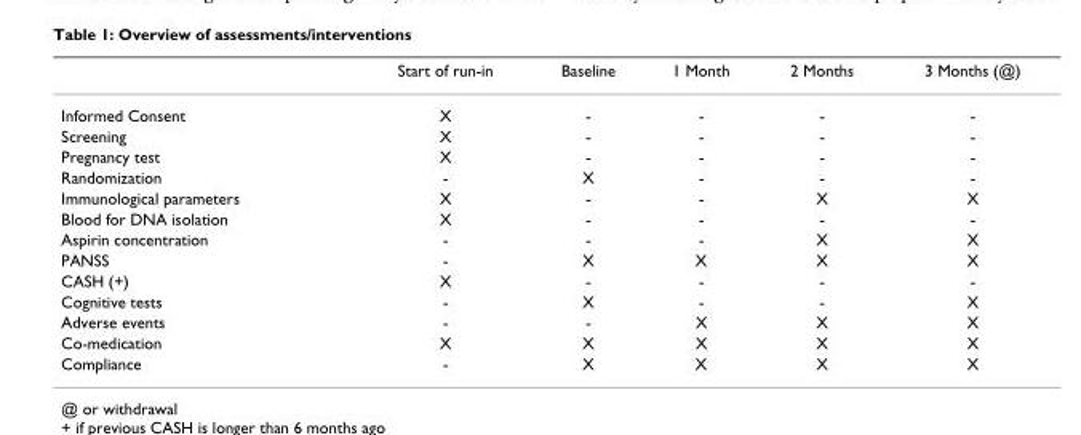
<table><thead><tr><td></td><td>Start of run-in</td><td>Baseline</td><td>1 Month</td><td>2 Months</td><td>3 Months (@)</td></tr></thead><tbody><tr><td>Informed Consent</td><td>X</td><td>-</td><td>-</td><td>-</td><td>-</td></tr><tr><td>Screening</td><td>X</td><td>-</td><td>-</td><td>-</td><td>-</td></tr><tr><td>Pregnancy test</td><td>X</td><td>-</td><td>-</td><td>-</td><td>-</td></tr><tr><td>Randomization</td><td>-</td><td>X</td><td>-</td><td>-</td><td>-</td></tr><tr><td>Immunological parameters</td><td>X</td><td>-</td><td>-</td><td>X</td><td>X</td></tr><tr><td>Blood for DNA isolation</td><td>X</td><td>-</td><td>-</td><td>-</td><td>-</td></tr><tr><td>Aspirin concentration</td><td>-</td><td>-</td><td>-</td><td>X</td><td>X</td></tr><tr><td>PANSS</td><td>-</td><td>X</td><td>X</td><td>X</td><td>X</td></tr><tr><td>CASH (+)</td><td>X</td><td>-</td><td>-</td><td>-</td><td>-</td></tr><tr><td>Cognitive tests</td><td>-</td><td>X</td><td>-</td><td>-</td><td>X</td></tr><tr><td>Adverse events</td><td>-</td><td>-</td><td>X</td><td>X</td><td>X</td></tr><tr><td>Co-medication</td><td>X</td><td>X</td><td>X</td><td>X</td><td>X</td></tr><tr><td>Compliance</td><td>-</td><td>X</td><td>X</td><td>X</td><td>X</td></tr></tbody></table>